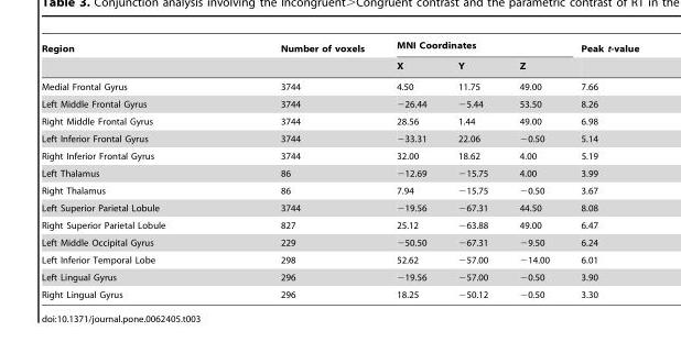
<table><thead><tr><td rowspan="2">Region</td><td rowspan="2">Number of voxels</td><td colspan="3">MNI Coordinates</td><td rowspan="2">Peak t-value</td></tr><tr><td>X</td><td>Y</td><td>Z</td></tr></thead><tbody><tr><td>Medial Frontal Gyrus</td><td>3744</td><td>4.50</td><td>11.75</td><td>49.00</td><td>7.66</td></tr><tr><td>Left Middle Frontal Gyrus</td><td>3744</td><td>−26.44</td><td>−5.44</td><td>53.50</td><td>8.26</td></tr><tr><td>Right Middle Frontal Gyrus</td><td>3744</td><td>28.56</td><td>1.44</td><td>49.00</td><td>6.98</td></tr><tr><td>Left Inferior Frontal Gyrus</td><td>3744</td><td>−33.31</td><td>22.06</td><td>−0.50</td><td>5.14</td></tr><tr><td>Right Inferior Frontal Gyrus</td><td>3744</td><td>32.00</td><td>18.62</td><td>4.00</td><td>5.19</td></tr><tr><td>Left Thalamus</td><td>86</td><td>−12.69</td><td>−15.75</td><td>4.00</td><td>3.99</td></tr><tr><td>Right Thalamus</td><td>86</td><td>7.94</td><td>−15.75</td><td>−0.50</td><td>3.67</td></tr><tr><td>Left Superior Parietal Lobule</td><td>3744</td><td>−19.56</td><td>−67.31</td><td>44.50</td><td>8.08</td></tr><tr><td>Right Superior Parietal Lobule</td><td>827</td><td>25.12</td><td>−63.88</td><td>49.00</td><td>6.47</td></tr><tr><td>Left Middle Occipital Gyrus</td><td>229</td><td>−50.50</td><td>−67.31</td><td>−9.50</td><td>6.24</td></tr><tr><td>Left Inferior Temporal Lobe</td><td>298</td><td>52.62</td><td>−57.00</td><td>−14.00</td><td>6.01</td></tr><tr><td>Left Lingual Gyrus</td><td>296</td><td>−19.56</td><td>−57.00</td><td>−0.50</td><td>3.90</td></tr><tr><td>Right Lingual Gyrus</td><td>296</td><td>18.25</td><td>−50.12</td><td>−0.50</td><td>3.30</td></tr></tbody></table>